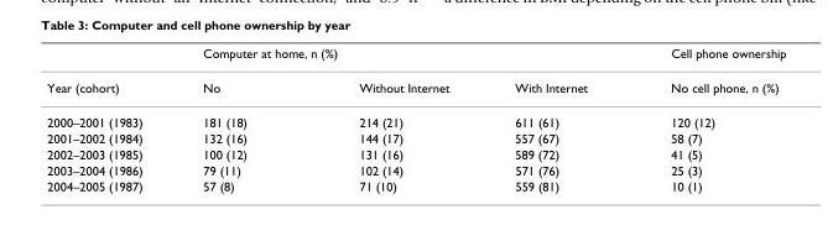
<table><thead><tr><td rowspan="2">Year (cohort)</td><td colspan="3">Computer at home, n (%)</td><td rowspan="2">Cell phone ownership No cell phone, n (%)</td></tr><tr><td>No</td><td>Without Internet</td><td>With Internet</td></tr></thead><tbody><tr><td>2000–2001 (1983)</td><td>181 (18)</td><td>214 (21)</td><td>611 (61)</td><td>120 (12)</td></tr><tr><td>2001–2002 (1984)</td><td>132 (16)</td><td>144 (17)</td><td>557 (67)</td><td>58 (7)</td></tr><tr><td>2002–2003 (1985)</td><td>100 (12)</td><td>131 (16)</td><td>589 (72)</td><td>41 (5)</td></tr><tr><td>2003–2004 (1986)</td><td>79 (11)</td><td>102 (14)</td><td>571 (76)</td><td>25 (3)</td></tr><tr><td>2004–2005 (1987)</td><td>57 (8)</td><td>71 (10)</td><td>559 (81)</td><td>10 (1)</td></tr></tbody></table>